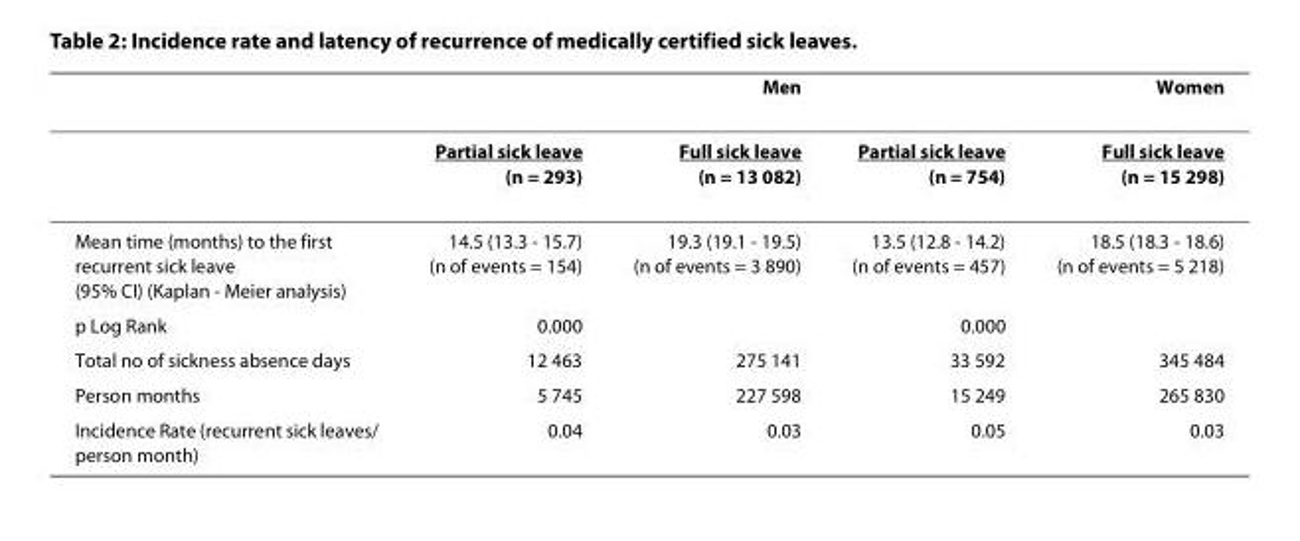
<table><thead><tr><td rowspan="2"></td><td colspan="2">Men</td><td colspan="2">Women</td></tr><tr><td>Partial sick leave (n = 293)</td><td>Full sick leave (n = 13 082)</td><td>Partial sick leave (n = 754)</td><td>Full sick leave (n = 15 298)</td></tr></thead><tbody><tr><td>Mean time (months) to the first recurrent sick leave (95% CI) (Kaplan - Meier analysis)</td><td>14.5 (13.3 - 15.7) (n of events = 154)</td><td>19.3 (19.1 - 19.5) (n of events = 3 890)</td><td>13.5 (12.8 - 14.2) (n of events = 457)</td><td>18.5 (18.3 - 18.6) (n of events = 5 218)</td></tr><tr><td>p Log Rank</td><td>0.000</td><td></td><td>0.000</td><td></td></tr><tr><td>Total no of sickness absence days</td><td>12 463</td><td>275 141</td><td>33 592</td><td>345 484</td></tr><tr><td>Person months</td><td>5 745</td><td>227 598</td><td>15 249</td><td>265 830</td></tr><tr><td>Incidence Rate (recurrent sick leaves/ person month)</td><td>0.04</td><td>0.03</td><td>0.05</td><td>0.03</td></tr></tbody></table>